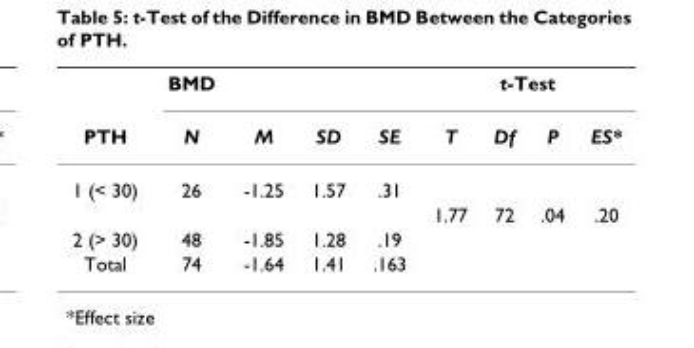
<table><thead><tr><td rowspan="2">PTH</td><td rowspan="2">BMD N</td><td rowspan="2">M</td><td rowspan="2">SD</td><td rowspan="2">SE</td><td colspan="4">t-Test</td></tr><tr><td>T</td><td>Df</td><td>P</td><td>ES*</td></tr></thead><tbody><tr><td rowspan="2">1 (&lt; 30)</td><td>26</td><td>-1.25</td><td>1.57</td><td>.31</td><td></td><td></td><td></td><td></td></tr><tr><td></td><td></td><td></td><td></td><td>1.77</td><td>72</td><td>.04</td><td>.20</td></tr><tr><td>2 (&gt; 30)</td><td>48</td><td>-1.85</td><td>1.28</td><td>.19</td><td></td><td></td><td></td><td></td></tr><tr><td>Total</td><td>74</td><td>-1.64</td><td>1.41</td><td>.163</td><td></td><td></td><td></td><td></td></tr></tbody></table>